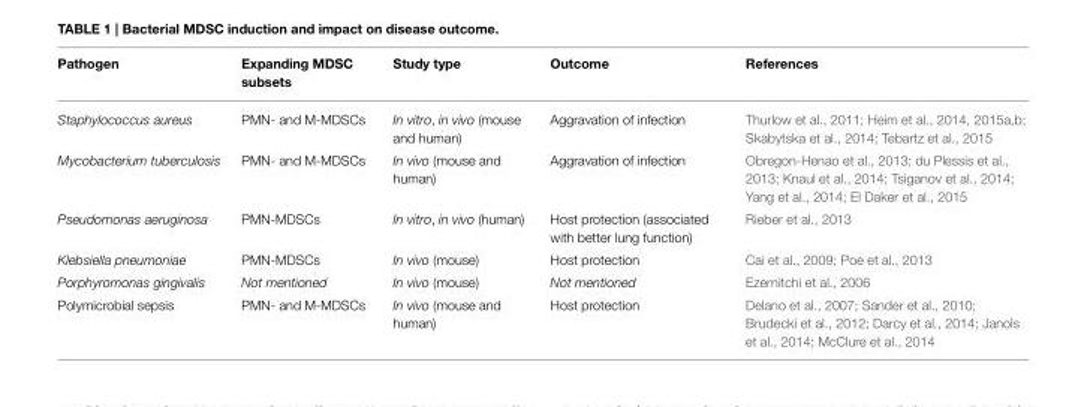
<table><thead><tr><td>Pathogen</td><td>Expanding MDSC subsets</td><td>Study type</td><td>Outcome</td><td>References</td></tr></thead><tbody><tr><td>Staphylococcus aureus</td><td>PMN- and M-MDSCs</td><td>In vitro, in vivo (mouse and human)</td><td>Aggravation of infection</td><td>Thurlow et al., 2011; Heim et al., 2014, 2015a,b; Skabytska et al., 2014; Tebartz et al., 2015</td></tr><tr><td>Mycobacterium tuberculosis</td><td>PMN- and M-MDSCs</td><td>In vivo (mouse and human)</td><td>Aggravation of infection</td><td>Obregon-Henao et al., 2013; du Plessis et al., 2013; Knaul et al., 2014; Tsiganov et al., 2014; Yang et al., 2014; El Daker et al., 2015</td></tr><tr><td>Pseudomonas aeruginosa</td><td>PMN-MDSCs</td><td>In vitro, in vivo (human)</td><td>Host protection (associated with better lung function)</td><td>Rieber et al., 2013</td></tr><tr><td>Klebsiella pneumoniae</td><td>PMN-MDSCs</td><td>In vivo (mouse)</td><td>Host protection</td><td>Cai et al., 2009; Poe et al., 2013</td></tr><tr><td>Porphyromonas gingivalis</td><td>Not mentioned</td><td>In vivo (mouse)</td><td>Not mentioned</td><td>Ezernitchi et al., 2006</td></tr><tr><td>Polymicrobial sepsis</td><td>PMN- and M-MDSCs</td><td>In vivo (mouse and human)</td><td>Host protection</td><td>Delano et al., 2007; Sander et al., 2010; Brudecki et al., 2012; Darcy et al., 2014; Janols et al., 2014; McClure et al., 2014</td></tr></tbody></table>